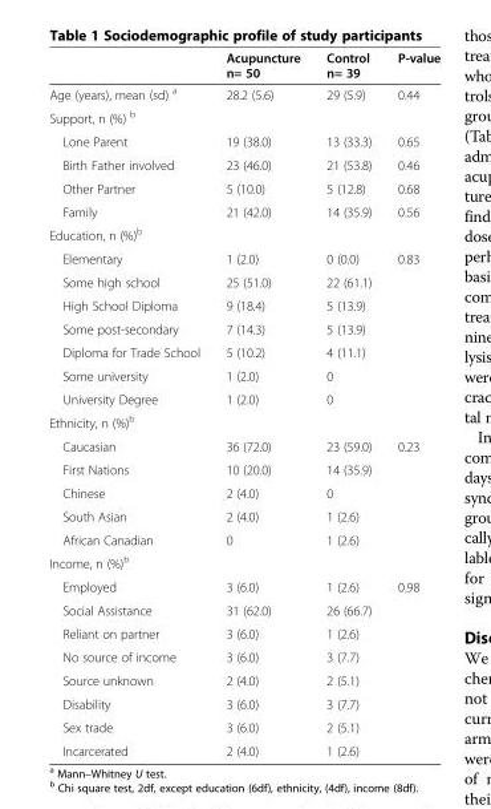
<table><thead><tr><td></td><td>Acupuncture n= 50</td><td>Control n= 39</td><td>P-value</td></tr></thead><tbody><tr><td>Age (years), mean (sd) <sup>a</sup></td><td>28.2 (5.6)</td><td>29 (5.9)</td><td>0.44</td></tr><tr><td colspan="4">Support, n (%) <sup>b</sup></td></tr><tr><td>Lone Parent</td><td>19 (38.0)</td><td>13 (33.3)</td><td>0.65</td></tr><tr><td>Birth Father involved</td><td>23 (46.0)</td><td>21 (53.8)</td><td>0.46</td></tr><tr><td>Other Partner</td><td>5 (10.0)</td><td>5 (12.8)</td><td>0.68</td></tr><tr><td>Family</td><td>21 (42.0)</td><td>14 (35.9)</td><td>0.56</td></tr><tr><td colspan="4">Education, n (%)<sup>b</sup></td></tr><tr><td>Elementary</td><td>1 (2.0)</td><td>0 (0.0)</td><td>0.83</td></tr><tr><td>Some high school</td><td>25 (51.0)</td><td>22 (61.1)</td><td></td></tr><tr><td>High School Diploma</td><td>9 (18.4)</td><td>5 (13.9)</td><td></td></tr><tr><td>Some post-secondary</td><td>7 (14.3)</td><td>5 (13.9)</td><td></td></tr><tr><td>Diploma for Trade School</td><td>5 (10.2)</td><td>4 (11.1)</td><td></td></tr><tr><td>Some university</td><td>1 (2.0)</td><td>0</td><td></td></tr><tr><td>University Degree</td><td>1 (2.0)</td><td>0</td><td></td></tr><tr><td colspan="4">Ethnicity, n (%)<sup>b</sup></td></tr><tr><td>Caucasian</td><td>36 (72.0)</td><td>23 (59.0)</td><td>0.23</td></tr><tr><td>First Nations</td><td>10 (20.0)</td><td>14 (35.9)</td><td></td></tr><tr><td>Chinese</td><td>2 (4.0)</td><td>0</td><td></td></tr><tr><td>South Asian</td><td>2 (4.0)</td><td>1 (2.6)</td><td></td></tr><tr><td>African Canadian</td><td>0</td><td>1 (2.6)</td><td></td></tr><tr><td colspan="4">Income, n (%)<sup>b</sup></td></tr><tr><td>Employed</td><td>3 (6.0)</td><td>1 (2.6)</td><td>0.98</td></tr><tr><td>Social Assistance</td><td>31 (62.0)</td><td>26 (66.7)</td><td></td></tr><tr><td>Reliant on partner</td><td>3 (6.0)</td><td>1 (2.6)</td><td></td></tr><tr><td>No source of income</td><td>3 (6.0)</td><td>3 (7.7)</td><td></td></tr><tr><td>Source unknown</td><td>2 (4.0)</td><td>2 (5.1)</td><td></td></tr><tr><td>Disability</td><td>3 (6.0)</td><td>3 (7.7)</td><td></td></tr><tr><td>Sex trade</td><td>3 (6.0)</td><td>2 (5.1)</td><td></td></tr><tr><td>Incarcerated</td><td>2 (4.0)</td><td>1 (2.6)</td><td></td></tr></tbody></table>